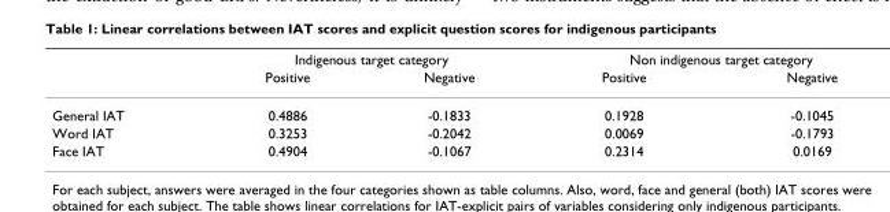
<table><thead><tr><td rowspan="2"></td><td colspan="2">Indigenous target category</td><td colspan="2">Non indigenous target category</td></tr><tr><td>Positive</td><td>Negative</td><td>Positive</td><td>Negative</td></tr></thead><tbody><tr><td>General IAT</td><td>0.4886</td><td>-0.1833</td><td>0.1928</td><td>-0.1045</td></tr><tr><td>Word IAT</td><td>0.3253</td><td>-0.2042</td><td>0.0069</td><td>-0.1793</td></tr><tr><td>Face IAT</td><td>0.4904</td><td>-0.1067</td><td>0.2314</td><td>0.0169</td></tr></tbody></table>